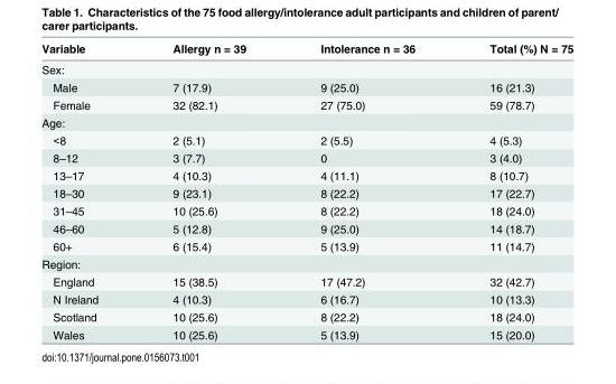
<table><thead><tr><td>Variable</td><td>Allergy n = 39</td><td>Intolerance n = 36</td><td>Total (%) N = 75</td></tr></thead><tbody><tr><td colspan="4">Sex:</td></tr><tr><td>Male</td><td>7 (17.9)</td><td>9 (25.0)</td><td>16 (21.3)</td></tr><tr><td>Female</td><td>32 (82.1)</td><td>27 (75.0)</td><td>59 (78.7)</td></tr><tr><td colspan="4">Age:</td></tr><tr><td>&lt;8</td><td>2 (5.1)</td><td>2 (5.5)</td><td>4 (5.3)</td></tr><tr><td>8–12</td><td>3 (7.7)</td><td>0</td><td>3 (4.0)</td></tr><tr><td>13–17</td><td>4 (10.3)</td><td>4 (11.1)</td><td>8 (10.7)</td></tr><tr><td>18–30</td><td>9 (23.1)</td><td>8 (22.2)</td><td>17 (22.7)</td></tr><tr><td>31–45</td><td>10 (25.6)</td><td>8 (22.2)</td><td>18 (24.0)</td></tr><tr><td>46–60</td><td>5 (12.8)</td><td>9 (25.0)</td><td>14 (18.7)</td></tr><tr><td>60+</td><td>6 (15.4)</td><td>5 (13.9)</td><td>11 (14.7)</td></tr><tr><td colspan="4">Region:</td></tr><tr><td>England</td><td>15 (38.5)</td><td>17 (47.2)</td><td>32 (42.7)</td></tr><tr><td>N Ireland</td><td>4 (10.3)</td><td>6 (16.7)</td><td>10 (13.3)</td></tr><tr><td>Scotland</td><td>10 (25.6)</td><td>8 (22.2)</td><td>18 (24.0)</td></tr><tr><td>Wales</td><td>10 (25.6)</td><td>5 (13.9)</td><td>15 (20.0)</td></tr></tbody></table>